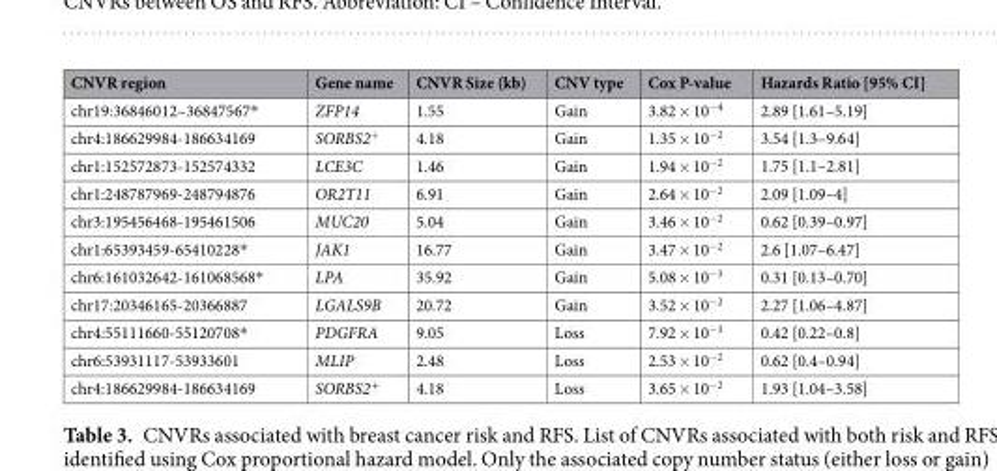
<table><thead><tr><td>CNVR region</td><td>Gene name</td><td>CNVR Size (kb)</td><td>CNV type</td><td>Cox P-value</td><td>Hazards Ratio [95% CI]</td></tr></thead><tbody><tr><td>chr19:36846012–36847567*</td><td>ZFP14</td><td>1.55</td><td>Gain</td><td>3.82 × 10<sup>−4</sup></td><td>2.89 [1.61–5.19]</td></tr><tr><td>chr4:186629984-186634169</td><td>SORBS2<sup>+</sup></td><td>4.18</td><td>Gain</td><td>1.35 × 10<sup>−2</sup></td><td>3.54 [1.3–9.64]</td></tr><tr><td>chr1:152572873-152574332</td><td>LCE3C</td><td>1.46</td><td>Gain</td><td>1.94 × 10<sup>−2</sup></td><td>1.75 [1.1–2.81]</td></tr><tr><td>chr1:248787969-248794876</td><td>OR2T11</td><td>6.91</td><td>Gain</td><td>2.64 × 10<sup>−2</sup></td><td>2.09 [1.09–4]</td></tr><tr><td>chr3:195456468-195461506</td><td>MUC20</td><td>5.04</td><td>Gain</td><td>3.46 × 10<sup>−2</sup></td><td>0.62 [0.39–0.97]</td></tr><tr><td>chr1:65393459-65410228*</td><td>JAK1</td><td>16.77</td><td>Gain</td><td>3.47 × 10<sup>−2</sup></td><td>2.6 [1.07–6.47]</td></tr><tr><td>chr6:161032642-161068568*</td><td>LPA</td><td>35.92</td><td>Gain</td><td>5.08 × 10<sup>−3</sup></td><td>0.31 [0.13–0.70]</td></tr><tr><td>chr17:20346165-20366887</td><td>LGALS9B</td><td>20.72</td><td>Gain</td><td>3.52 × 10<sup>−2</sup></td><td>2.27 [1.06–4.87]</td></tr><tr><td>chr4:55111660-55120708*</td><td>PDGFRA</td><td>9.05</td><td>Loss</td><td>7.92 × 10<sup>−3</sup></td><td>0.42 [0.22–0.8]</td></tr><tr><td>chr6:53931117-53933601</td><td>MLIP</td><td>2.48</td><td>Loss</td><td>2.53 × 10<sup>−2</sup></td><td>0.62 [0.4–0.94]</td></tr><tr><td>chr4:186629984-186634169</td><td>SORBS2<sup>+</sup></td><td>4.18</td><td>Loss</td><td>3.65 × 10<sup>−2</sup></td><td>1.93 [1.04–3.58]</td></tr></tbody></table>